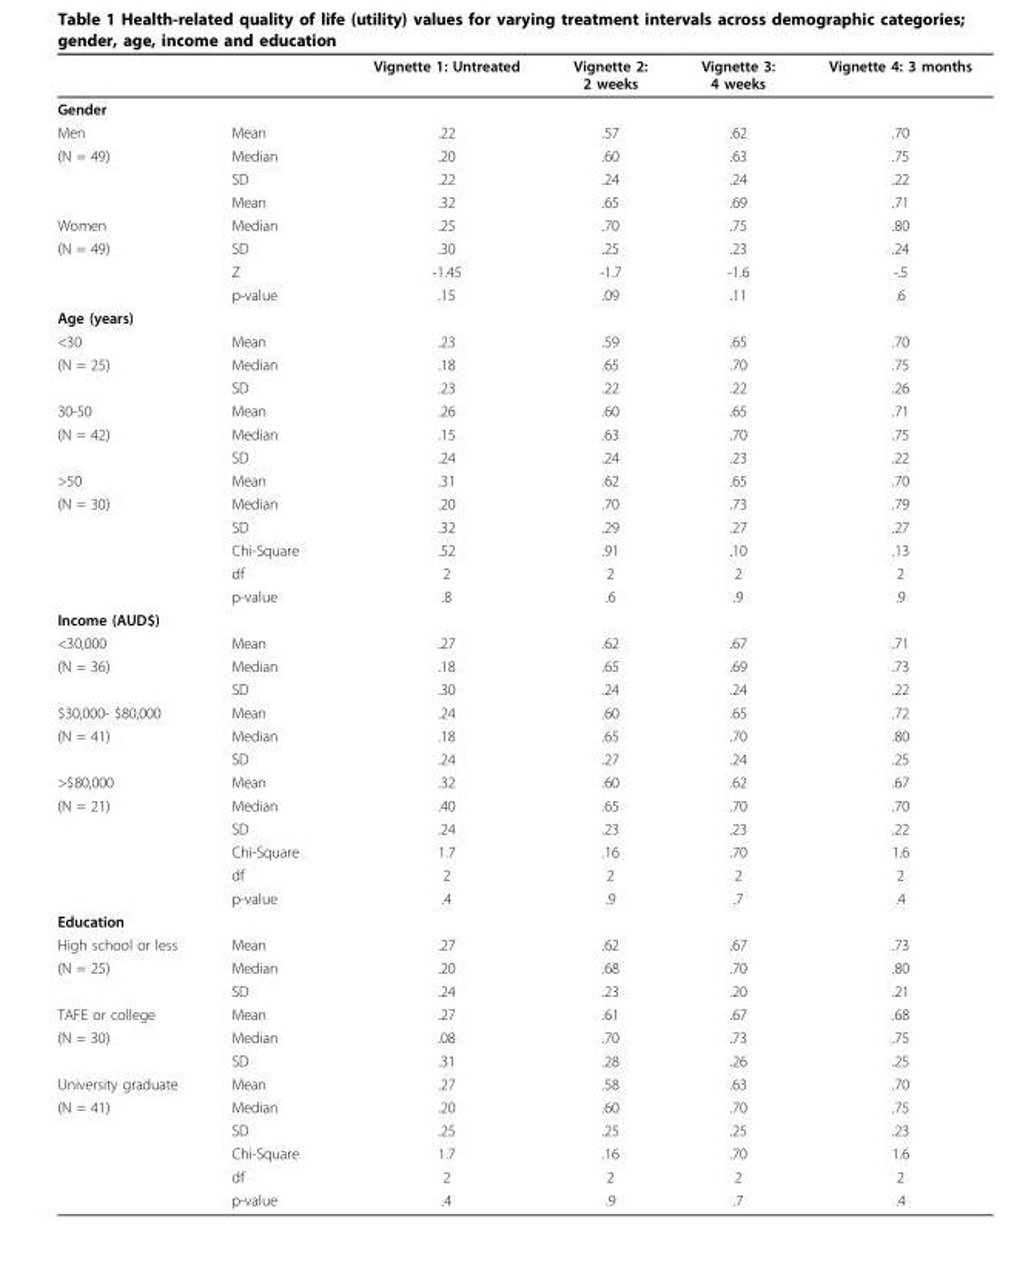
<table><thead><tr><td></td><td></td><td>Vignette 1: Untreated</td><td>Vignette 2: 2 weeks</td><td>Vignette 3: 4 weeks</td><td>Vignette 4: 3 months</td></tr></thead><tbody><tr><td colspan="6">Gender</td></tr><tr><td>Men</td><td>Mean</td><td>.22</td><td>.57</td><td>.62</td><td>.70</td></tr><tr><td rowspan="3">(N = 49)</td><td>Median</td><td>.20</td><td>.60</td><td>.63</td><td>.75</td></tr><tr><td>SD</td><td>.22</td><td>.24</td><td>.24</td><td>.22</td></tr><tr><td>Mean</td><td>.32</td><td>.65</td><td>.69</td><td>.71</td></tr><tr><td>Women</td><td>Median</td><td>.25</td><td>.70</td><td>.75</td><td>.80</td></tr><tr><td rowspan="3">(N = 49)</td><td>SD</td><td>.30</td><td>.25</td><td>.23</td><td>.24</td></tr><tr><td>Z</td><td>-1.45</td><td>-1.7</td><td>-1.6</td><td>-.5</td></tr><tr><td>p-value</td><td>.15</td><td>.09</td><td>.11</td><td>.6</td></tr><tr><td colspan="6">Age (years)</td></tr><tr><td>&lt;30</td><td>Mean</td><td>.23</td><td>.59</td><td>.65</td><td>.70</td></tr><tr><td rowspan="2">(N = 25)</td><td>Median</td><td>.18</td><td>.65</td><td>.70</td><td>.75</td></tr><tr><td>SD</td><td>.23</td><td>.22</td><td>.22</td><td>.26</td></tr><tr><td>30-50</td><td>Mean</td><td>.26</td><td>.60</td><td>.65</td><td>.71</td></tr><tr><td rowspan="2">(N = 42)</td><td>Median</td><td>.15</td><td>.63</td><td>.70</td><td>.75</td></tr><tr><td>SD</td><td>.24</td><td>.24</td><td>.23</td><td>.22</td></tr><tr><td>&gt;50</td><td>Mean</td><td>.31</td><td>.62</td><td>.65</td><td>.70</td></tr><tr><td rowspan="5">(N = 30)</td><td>Median</td><td>.20</td><td>.70</td><td>.73</td><td>.79</td></tr><tr><td>SD</td><td>.32</td><td>.29</td><td>.27</td><td>.27</td></tr><tr><td>Chi-Square</td><td>.52</td><td>.91</td><td>.10</td><td>.13</td></tr><tr><td>df</td><td>2</td><td>2</td><td>2</td><td>2</td></tr><tr><td>p-value</td><td>.8</td><td>.6</td><td>.9</td><td>.9</td></tr><tr><td colspan="6">Income (AUD$)</td></tr><tr><td>&lt;30,000</td><td>Mean</td><td>.27</td><td>.62</td><td>.67</td><td>.71</td></tr><tr><td rowspan="2">(N = 36)</td><td>Median</td><td>.18</td><td>.65</td><td>.69</td><td>.73</td></tr><tr><td>SD</td><td>.30</td><td>.24</td><td>.24</td><td>.22</td></tr><tr><td>$30,000- $80,000</td><td>Mean</td><td>.24</td><td>.60</td><td>.65</td><td>.72</td></tr><tr><td rowspan="2">(N = 41)</td><td>Median</td><td>.18</td><td>.65</td><td>.70</td><td>.80</td></tr><tr><td>SD</td><td>.24</td><td>.27</td><td>.24</td><td>.25</td></tr><tr><td>&gt;$80,000</td><td>Mean</td><td>.32</td><td>.60</td><td>.62</td><td>.67</td></tr><tr><td rowspan="5">(N = 21)</td><td>Median</td><td>.40</td><td>.65</td><td>.70</td><td>.70</td></tr><tr><td>SD</td><td>.24</td><td>.23</td><td>.23</td><td>.22</td></tr><tr><td>Chi-Square</td><td>1.7</td><td>.16</td><td>.70</td><td>1.6</td></tr><tr><td>df</td><td>2</td><td>2</td><td>2</td><td>2</td></tr><tr><td>p-value</td><td>.4</td><td>.9</td><td>.7</td><td>.4</td></tr><tr><td colspan="6">Education</td></tr><tr><td>High school or less</td><td>Mean</td><td>.27</td><td>.62</td><td>.67</td><td>.73</td></tr><tr><td rowspan="2">(N = 25)</td><td>Median</td><td>.20</td><td>.68</td><td>.70</td><td>.80</td></tr><tr><td>SD</td><td>.24</td><td>.23</td><td>.20</td><td>.21</td></tr><tr><td>TAFE or college</td><td>Mean</td><td>.27</td><td>.61</td><td>.67</td><td>.68</td></tr><tr><td rowspan="2">(N = 30)</td><td>Median</td><td>.08</td><td>.70</td><td>.73</td><td>.75</td></tr><tr><td>SD</td><td>.31</td><td>.28</td><td>.26</td><td>.25</td></tr><tr><td>University graduate</td><td>Mean</td><td>.27</td><td>.58</td><td>.63</td><td>.70</td></tr><tr><td rowspan="5">(N = 41)</td><td>Median</td><td>.20</td><td>.60</td><td>.70</td><td>.75</td></tr><tr><td>SD</td><td>.25</td><td>.25</td><td>.25</td><td>.23</td></tr><tr><td>Chi-Square</td><td>1.7</td><td>.16</td><td>.70</td><td>1.6</td></tr><tr><td>df</td><td>2</td><td>2</td><td>2</td><td>2</td></tr><tr><td>p-value</td><td>.4</td><td>.9</td><td>.7</td><td>.4</td></tr></tbody></table>